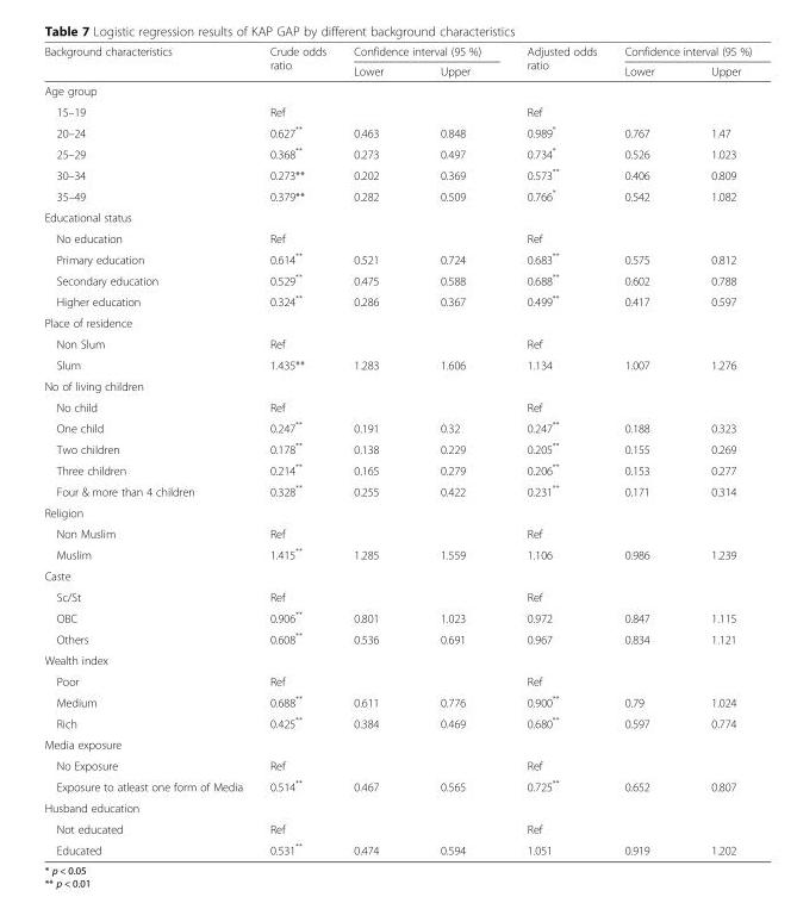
<table><thead><tr><td rowspan="2">Background characteristics</td><td rowspan="2">Crude odds ratio</td><td colspan="2">Confidence interval (95 %)</td><td rowspan="2">Adjusted odds ratio</td><td colspan="2">Confidence interval (95 %)</td></tr><tr><td>Lower</td><td>Upper</td><td>Lower</td><td>Upper</td></tr></thead><tbody><tr><td colspan="7">Age group</td></tr><tr><td>15–19</td><td>Ref</td><td></td><td></td><td>Ref</td><td></td><td></td></tr><tr><td>20–24</td><td>0.627**</td><td>0.463</td><td>0.848</td><td>0.989*</td><td>0.767</td><td>1.47</td></tr><tr><td>25–29</td><td>0.368**</td><td>0.273</td><td>0.497</td><td>0.734*</td><td>0.526</td><td>1.023</td></tr><tr><td>30–34</td><td>0.273**</td><td>0.202</td><td>0.369</td><td>0.573**</td><td>0.406</td><td>0.809</td></tr><tr><td>35–49</td><td>0.379**</td><td>0.282</td><td>0.509</td><td>0.766*</td><td>0.542</td><td>1.082</td></tr><tr><td colspan="7">Educational status</td></tr><tr><td>No education</td><td>Ref</td><td></td><td></td><td>Ref</td><td></td><td></td></tr><tr><td>Primary education</td><td>0.614**</td><td>0.521</td><td>0.724</td><td>0.683**</td><td>0.575</td><td>0.812</td></tr><tr><td>Secondary education</td><td>0.529**</td><td>0.475</td><td>0.588</td><td>0.688**</td><td>0.602</td><td>0.788</td></tr><tr><td>Higher education</td><td>0.324**</td><td>0.286</td><td>0.367</td><td>0.499**</td><td>0.417</td><td>0.597</td></tr><tr><td colspan="7">Place of residence</td></tr><tr><td>Non Slum</td><td>Ref</td><td></td><td></td><td>Ref</td><td></td><td></td></tr><tr><td>Slum</td><td>1.435**</td><td>1.283</td><td>1.606</td><td>1.134</td><td>1.007</td><td>1.276</td></tr><tr><td colspan="7">No of living children</td></tr><tr><td>No child</td><td>Ref</td><td></td><td></td><td>Ref</td><td></td><td></td></tr><tr><td>One child</td><td>0.247**</td><td>0.191</td><td>0.32</td><td>0.247**</td><td>0.188</td><td>0.323</td></tr><tr><td>Two children</td><td>0.178**</td><td>0.138</td><td>0.229</td><td>0.205**</td><td>0.155</td><td>0.269</td></tr><tr><td>Three children</td><td>0.214**</td><td>0.165</td><td>0.279</td><td>0.206**</td><td>0.153</td><td>0.277</td></tr><tr><td>Four &amp; more than 4 children</td><td>0.328**</td><td>0.255</td><td>0.422</td><td>0.231**</td><td>0.171</td><td>0.314</td></tr><tr><td colspan="7">Religion</td></tr><tr><td>Non Muslim</td><td>Ref</td><td></td><td></td><td>Ref</td><td></td><td></td></tr><tr><td>Muslim</td><td>1.415**</td><td>1.285</td><td>1.559</td><td>1.106</td><td>0.986</td><td>1.239</td></tr><tr><td colspan="7">Caste</td></tr><tr><td>Sc/St</td><td>Ref</td><td></td><td></td><td>Ref</td><td></td><td></td></tr><tr><td>OBC</td><td>0.906**</td><td>0.801</td><td>1.023</td><td>0.972</td><td>0.847</td><td>1.115</td></tr><tr><td>Others</td><td>0.608**</td><td>0.536</td><td>0.691</td><td>0.967</td><td>0.834</td><td>1.121</td></tr><tr><td colspan="7">Wealth index</td></tr><tr><td>Poor</td><td>Ref</td><td></td><td></td><td>Ref</td><td></td><td></td></tr><tr><td>Medium</td><td>0.688**</td><td>0.611</td><td>0.776</td><td>0.900**</td><td>0.79</td><td>1.024</td></tr><tr><td>Rich</td><td>0.425**</td><td>0.384</td><td>0.469</td><td>0.680**</td><td>0.597</td><td>0.774</td></tr><tr><td colspan="7">Media exposure</td></tr><tr><td>No Exposure</td><td>Ref</td><td></td><td></td><td>Ref</td><td></td><td></td></tr><tr><td>Exposure to atleast one form of Media</td><td>0.514**</td><td>0.467</td><td>0.565</td><td>0.725**</td><td>0.652</td><td>0.807</td></tr><tr><td colspan="7">Husband education</td></tr><tr><td>Not educated</td><td>Ref</td><td></td><td></td><td>Ref</td><td></td><td></td></tr><tr><td>Educated</td><td>0.531**</td><td>0.474</td><td>0.594</td><td>1.051</td><td>0.919</td><td>1.202</td></tr></tbody></table>